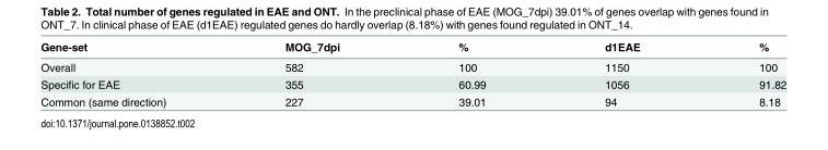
<table><thead><tr><td>Gene-set</td><td>MOG_7dpi</td><td>%</td><td>d1EAE</td><td>%</td></tr></thead><tbody><tr><td>Overall</td><td>582</td><td>100</td><td>1150</td><td>100</td></tr><tr><td>Specific for EAE</td><td>355</td><td>60.99</td><td>1056</td><td>91.82</td></tr><tr><td>Common (same direction)</td><td>227</td><td>39.01</td><td>94</td><td>8.18</td></tr></tbody></table>